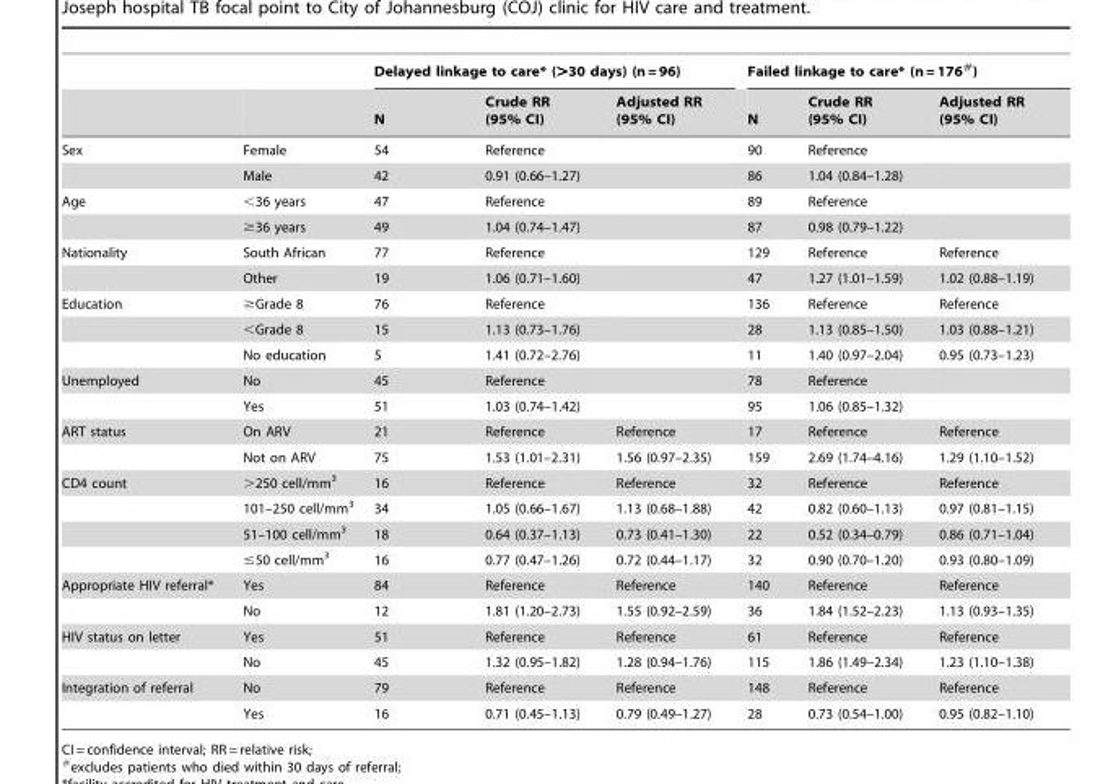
<table><thead><tr><td rowspan="2"></td><td rowspan="2"></td><td colspan="3">Delayed linkage to care* (&gt;30 days) (n = 96)</td><td colspan="3">Failed linkage to care* (n = 176#)</td></tr><tr><td>N</td><td>Crude RR (95% CI)</td><td>Adjusted RR (95% CI)</td><td>N</td><td>Crude RR (95% CI)</td><td>Adjusted RR (95% CI)</td></tr></thead><tbody><tr><td rowspan="2">Sex</td><td>Female</td><td>54</td><td>Reference</td><td></td><td>90</td><td>Reference</td><td></td></tr><tr><td>Male</td><td>42</td><td>0.91 (0.66–1.27)</td><td></td><td>86</td><td>1.04 (0.84–1.28)</td><td></td></tr><tr><td rowspan="2">Age</td><td>&lt;36 years</td><td>47</td><td>Reference</td><td></td><td>89</td><td>Reference</td><td></td></tr><tr><td>≥36 years</td><td>49</td><td>1.04 (0.74–1.47)</td><td></td><td>87</td><td>0.98 (0.79–1.22)</td><td></td></tr><tr><td rowspan="2">Nationality</td><td>South African</td><td>77</td><td>Reference</td><td></td><td>129</td><td>Reference</td><td>Reference</td></tr><tr><td>Other</td><td>19</td><td>1.06 (0.71–1.60)</td><td></td><td>47</td><td>1.27 (1.01–1.59)</td><td>1.02 (0.88–1.19)</td></tr><tr><td rowspan="3">Education</td><td>≥Grade 8</td><td>76</td><td>Reference</td><td></td><td>136</td><td>Reference</td><td>Reference</td></tr><tr><td>&lt;Grade 8</td><td>15</td><td>1.13 (0.73–1.76)</td><td></td><td>28</td><td>1.13 (0.85–1.50)</td><td>1.03 (0.88–1.21)</td></tr><tr><td>No education</td><td>5</td><td>1.41 (0.72–2.76)</td><td></td><td>11</td><td>1.40 (0.97–2.04)</td><td>0.95 (0.73–1.23)</td></tr><tr><td rowspan="2">Unemployed</td><td>No</td><td>45</td><td>Reference</td><td></td><td>78</td><td>Reference</td><td></td></tr><tr><td>Yes</td><td>51</td><td>1.03 (0.74–1.42)</td><td></td><td>95</td><td>1.06 (0.85–1.32)</td><td></td></tr><tr><td rowspan="2">ART status</td><td>On ARV</td><td>21</td><td>Reference</td><td>Reference</td><td>17</td><td>Reference</td><td>Reference</td></tr><tr><td>Not on ARV</td><td>75</td><td>1.53 (1.01–2.31)</td><td>1.56 (0.97–2.35)</td><td>159</td><td>2.69 (1.74–4.16)</td><td>1.29 (1.10–1.52)</td></tr><tr><td rowspan="4">CD4 count</td><td>&gt;250 cell/mm<sup>3</sup></td><td>16</td><td>Reference</td><td>Reference</td><td>32</td><td>Reference</td><td>Reference</td></tr><tr><td>101–250 cell/mm<sup>3</sup></td><td>34</td><td>1.05 (0.66–1.67)</td><td>1.13 (0.68–1.88)</td><td>42</td><td>0.82 (0.60–1.13)</td><td>0.97 (0.81–1.15)</td></tr><tr><td>51–100 cell/mm<sup>3</sup></td><td>18</td><td>0.64 (0.37–1.13)</td><td>0.73 (0.41–1.30)</td><td>22</td><td>0.52 (0.34–0.79)</td><td>0.86 (0.71–1.04)</td></tr><tr><td>≤50 cell/mm<sup>3</sup></td><td>16</td><td>0.77 (0.47–1.26)</td><td>0.72 (0.44–1.17)</td><td>32</td><td>0.90 (0.70–1.20)</td><td>0.93 (0.80–1.09)</td></tr><tr><td rowspan="2">Appropriate HIV referral*</td><td>Yes</td><td>84</td><td>Reference</td><td>Reference</td><td>140</td><td>Reference</td><td>Reference</td></tr><tr><td>No</td><td>12</td><td>1.81 (1.20–2.73)</td><td>1.55 (0.92–2.59)</td><td>36</td><td>1.84 (1.52–2.23)</td><td>1.13 (0.93–1.35)</td></tr><tr><td rowspan="2">HIV status on letter</td><td>Yes</td><td>51</td><td>Reference</td><td>Reference</td><td>61</td><td>Reference</td><td>Reference</td></tr><tr><td>No</td><td>45</td><td>1.32 (0.95–1.82)</td><td>1.28 (0.94–1.76)</td><td>115</td><td>1.86 (1.49–2.34)</td><td>1.23 (1.10–1.38)</td></tr><tr><td rowspan="2">Integration of referral</td><td>No</td><td>79</td><td>Reference</td><td>Reference</td><td>148</td><td>Reference</td><td>Reference</td></tr><tr><td>Yes</td><td>16</td><td>0.71 (0.45–1.13)</td><td>0.79 (0.49–1.27)</td><td>28</td><td>0.73 (0.54–1.00)</td><td>0.95 (0.82–1.10)</td></tr></tbody></table>